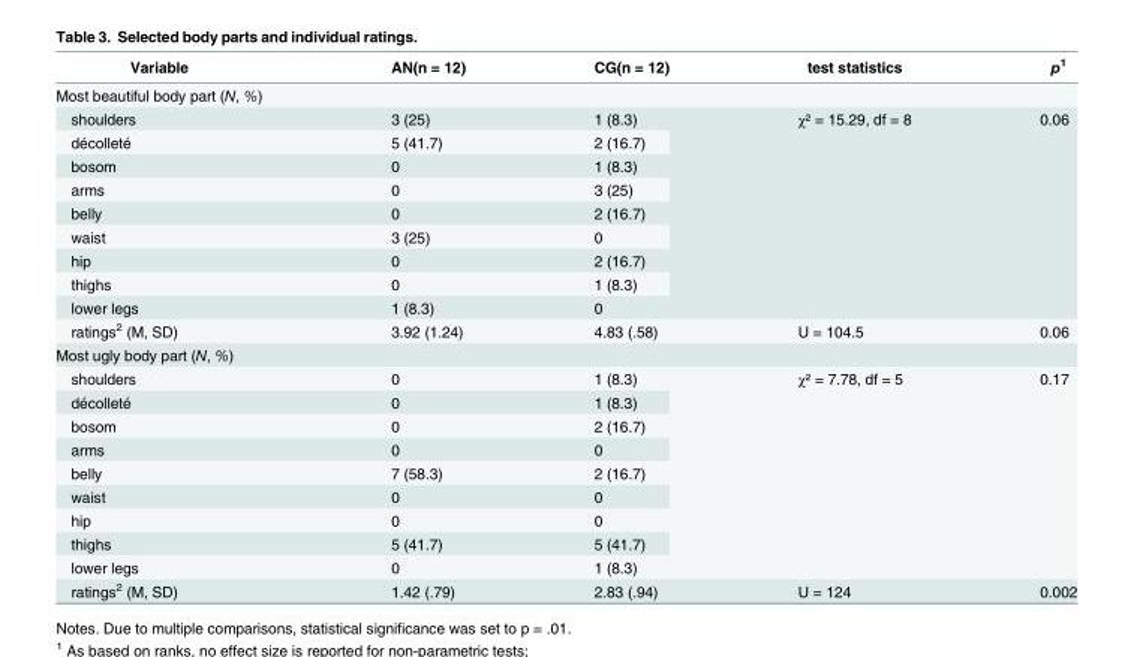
<table><thead><tr><td>Variable</td><td>AN(n = 12)</td><td>CG(n = 12)</td><td>test statistics</td><td>p<sup>1</sup></td></tr></thead><tbody><tr><td colspan="5">Most beautiful body part (N, %)</td></tr><tr><td>shoulders</td><td>3 (25)</td><td>1 (8.3)</td><td rowspan="9">χ² = 15.29, df = 8</td><td rowspan="9">0.06</td></tr><tr><td>décolleté</td><td>5 (41.7)</td><td>2 (16.7)</td></tr><tr><td>bosom</td><td>0</td><td>1 (8.3)</td></tr><tr><td>arms</td><td>0</td><td>3 (25)</td></tr><tr><td>belly</td><td>0</td><td>2 (16.7)</td></tr><tr><td>waist</td><td>3 (25)</td><td>0</td></tr><tr><td>hip</td><td>0</td><td>2 (16.7)</td></tr><tr><td>thighs</td><td>0</td><td>1 (8.3)</td></tr><tr><td>lower legs</td><td>1 (8.3)</td><td>0</td></tr><tr><td>ratings<sup>2</sup> (M, SD)</td><td>3.92 (1.24)</td><td>4.83 (.58)</td><td>U = 104.5</td><td>0.06</td></tr><tr><td colspan="5">Most ugly body part (N, %)</td></tr><tr><td>shoulders</td><td>0</td><td>1 (8.3)</td><td rowspan="9">χ² = 7.78, df = 5</td><td rowspan="9">0.17</td></tr><tr><td>décolleté</td><td>0</td><td>1 (8.3)</td></tr><tr><td>bosom</td><td>0</td><td>2 (16.7)</td></tr><tr><td>arms</td><td>0</td><td>0</td></tr><tr><td>belly</td><td>7 (58.3)</td><td>2 (16.7)</td></tr><tr><td>waist</td><td>0</td><td>0</td></tr><tr><td>hip</td><td>0</td><td>0</td></tr><tr><td>thighs</td><td>5 (41.7)</td><td>5 (41.7)</td></tr><tr><td>lower legs</td><td>0</td><td>1 (8.3)</td></tr><tr><td>ratings<sup>2</sup> (M, SD)</td><td>1.42 (.79)</td><td>2.83 (.94)</td><td>U = 124</td><td>0.002</td></tr></tbody></table>